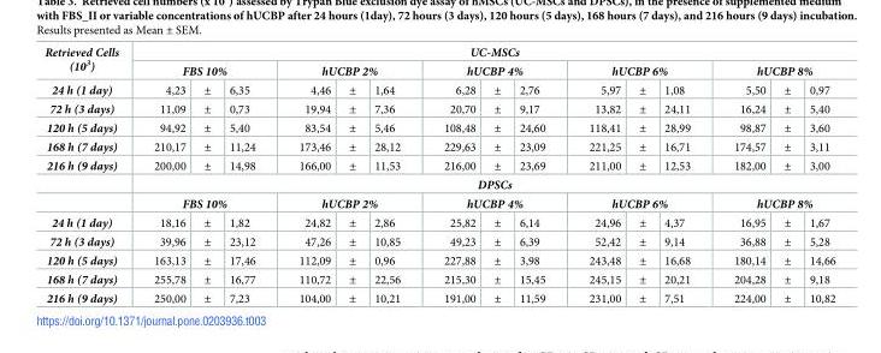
<table><tbody><tr><td rowspan="2">Retrieved Cells (10<sup>3</sup>)</td><td colspan="15">UC-MSCs</td></tr><tr><td colspan="3">FBS 10%</td><td colspan="3">hUCBP 2%</td><td colspan="3">hUCBP 4%</td><td colspan="3">hUCBP 6%</td><td colspan="3">hUCBP 8%</td></tr><tr><td>24 h (1 day)</td><td>4,23</td><td>±</td><td>6,35</td><td>4,46</td><td>±</td><td>1,64</td><td>6,28</td><td>±</td><td>2,76</td><td>5,97</td><td>±</td><td>1,08</td><td>5,50</td><td>±</td><td>0,97</td></tr><tr><td>72 h (3 days)</td><td>11,09</td><td>±</td><td>0,73</td><td>19,94</td><td>±</td><td>7,36</td><td>20,70</td><td>±</td><td>9,17</td><td>13,82</td><td>±</td><td>24,11</td><td>16,24</td><td>±</td><td>5,40</td></tr><tr><td>120 h (5 days)</td><td>94,92</td><td>±</td><td>5,40</td><td>83,54</td><td>±</td><td>5,46</td><td>108,48</td><td>±</td><td>24,60</td><td>118,41</td><td>±</td><td>28,99</td><td>98,87</td><td>±</td><td>3,60</td></tr><tr><td>168 h (7 days)</td><td>210,17</td><td>±</td><td>11,24</td><td>173,46</td><td>±</td><td>28,12</td><td>229,63</td><td>±</td><td>23,09</td><td>221,25</td><td>±</td><td>16,71</td><td>174,57</td><td>±</td><td>3,11</td></tr><tr><td rowspan="3">216 h (9 days)</td><td>200,00</td><td>±</td><td>14,98</td><td>166,00</td><td>±</td><td>11,53</td><td>216,00</td><td>±</td><td>23,69</td><td>211,00</td><td>±</td><td>12,53</td><td>182,00</td><td>±</td><td>3,00</td></tr><tr><td colspan="15">DPSCs</td></tr><tr><td colspan="3">FBS 10%</td><td colspan="3">hUCBP 2%</td><td colspan="3">hUCBP 4%</td><td colspan="3">hUCBP 6%</td><td colspan="3">hUCBP 8%</td></tr><tr><td>24 h (1 day)</td><td>18,16</td><td>±</td><td>1,82</td><td>24,82</td><td>±</td><td>2,86</td><td>25,82</td><td>±</td><td>6,14</td><td>24,96</td><td>±</td><td>4,37</td><td>16,95</td><td>±</td><td>1,67</td></tr><tr><td>72 h (3 days)</td><td>39,96</td><td>±</td><td>23,12</td><td>47,26</td><td>±</td><td>10,85</td><td>49,23</td><td>±</td><td>6,39</td><td>52,42</td><td>±</td><td>9,14</td><td>36,88</td><td>±</td><td>5,28</td></tr><tr><td>120 h (5 days)</td><td>163,13</td><td>±</td><td>17,46</td><td>112,09</td><td>±</td><td>0,96</td><td>227,88</td><td>±</td><td>3,98</td><td>243,48</td><td>±</td><td>16,68</td><td>180,14</td><td>±</td><td>14,66</td></tr><tr><td>168 h (7 days)</td><td>255,78</td><td>±</td><td>16,77</td><td>110,72</td><td>±</td><td>22,56</td><td>215,30</td><td>±</td><td>15,45</td><td>245,15</td><td>±</td><td>20,21</td><td>204,28</td><td>±</td><td>9,18</td></tr><tr><td>216 h (9 days)</td><td>250,00</td><td>±</td><td>7,23</td><td>104,00</td><td>±</td><td>10,21</td><td>191,00</td><td>±</td><td>11,59</td><td>231,00</td><td>±</td><td>7,51</td><td>224,00</td><td>±</td><td>10,82</td></tr></tbody></table>